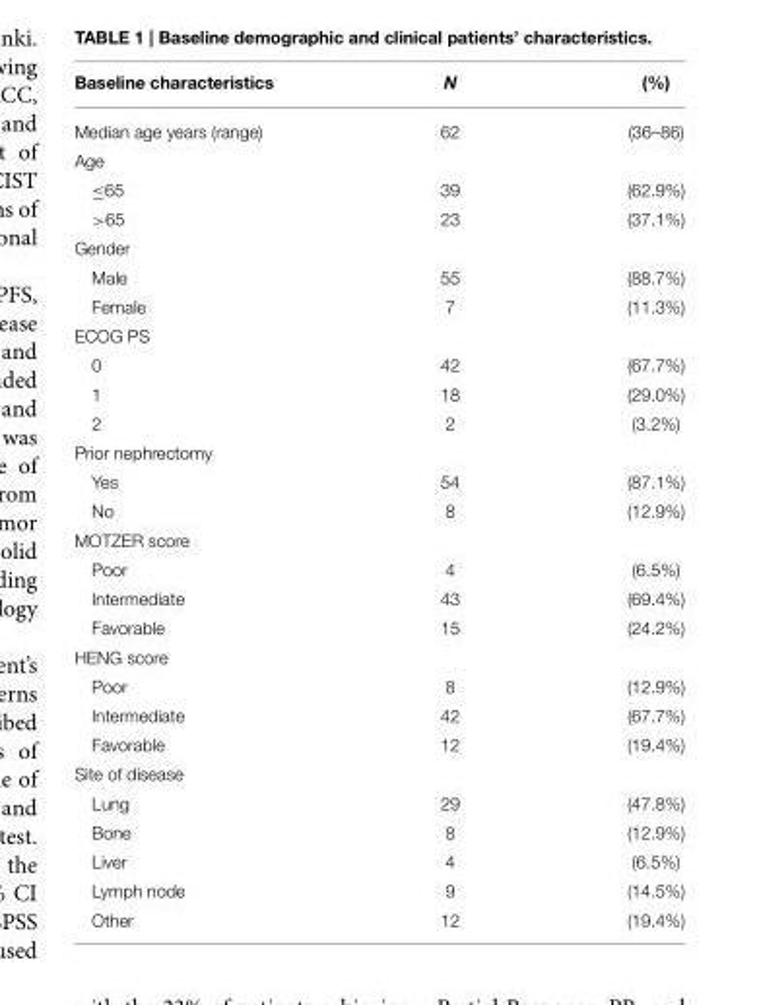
<table><thead><tr><td>Baseline characteristics</td><td>N</td><td>(%)</td></tr></thead><tbody><tr><td>Median age years (range)</td><td>62</td><td>(36–86)</td></tr><tr><td colspan="3">Age</td></tr><tr><td>≤65</td><td>39</td><td>(62.9%)</td></tr><tr><td>&gt;65</td><td>23</td><td>(37.1%)</td></tr><tr><td colspan="3">Gender</td></tr><tr><td>Male</td><td>55</td><td>(88.7%)</td></tr><tr><td>Female</td><td>7</td><td>(11.3%)</td></tr><tr><td colspan="3">ECOG PS</td></tr><tr><td>0</td><td>42</td><td>(67.7%)</td></tr><tr><td>1</td><td>18</td><td>(29.0%)</td></tr><tr><td>2</td><td>2</td><td>(3.2%)</td></tr><tr><td colspan="3">Prior nephrectomy</td></tr><tr><td>Yes</td><td>54</td><td>(87.1%)</td></tr><tr><td>No</td><td>8</td><td>(12.9%)</td></tr><tr><td colspan="3">MOTZER score</td></tr><tr><td>Poor</td><td>4</td><td>(6.5%)</td></tr><tr><td>Intermediate</td><td>43</td><td>(69.4%)</td></tr><tr><td>Favorable</td><td>15</td><td>(24.2%)</td></tr><tr><td colspan="3">HENG score</td></tr><tr><td>Poor</td><td>8</td><td>(12.9%)</td></tr><tr><td>Intermediate</td><td>42</td><td>(67.7%)</td></tr><tr><td>Favorable</td><td>12</td><td>(19.4%)</td></tr><tr><td colspan="3">Site of disease</td></tr><tr><td>Lung</td><td>29</td><td>(47.8%)</td></tr><tr><td>Bone</td><td>8</td><td>(12.9%)</td></tr><tr><td>Liver</td><td>4</td><td>(6.5%)</td></tr><tr><td>Lymph node</td><td>9</td><td>(14.5%)</td></tr><tr><td>Other</td><td>12</td><td>(19.4%)</td></tr></tbody></table>